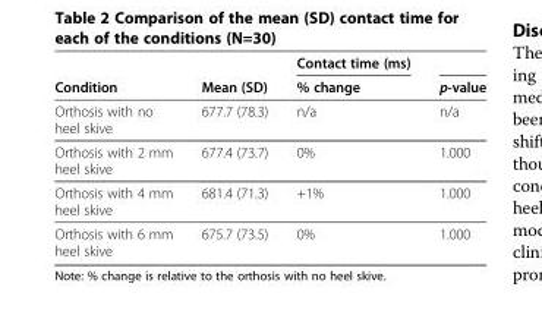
<table><thead><tr><td rowspan="2">Condition</td><td rowspan="2">Mean (SD)</td><td rowspan="2">Contact time (ms) % change</td><td rowspan="2">p-value</td></tr><tr></tr></thead><tbody><tr><td>Orthosis with no heel skive</td><td>677.7 (78.3)</td><td>n/a</td><td>n/a</td></tr><tr><td>Orthosis with 2 mm heel skive</td><td>677.4 (73.7)</td><td>0%</td><td>1.000</td></tr><tr><td>Orthosis with 4 mm heel skive</td><td>681.4 (71.3)</td><td>+1%</td><td>1.000</td></tr><tr><td>Orthosis with 6 mm heel skive</td><td>675.7 (73.5)</td><td>0%</td><td>1.000</td></tr></tbody></table>